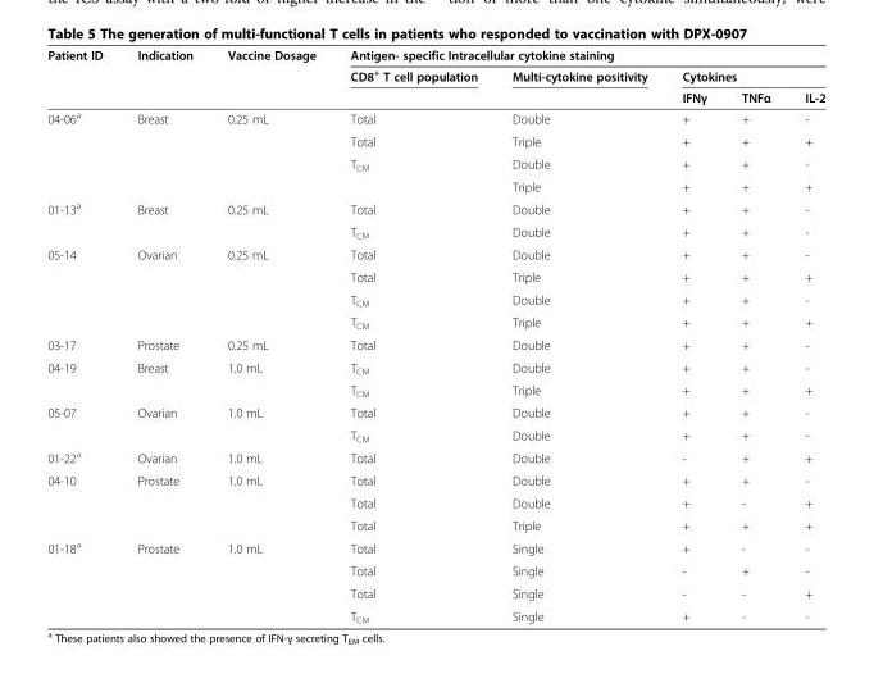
<table><thead><tr><td rowspan="3">Patient ID</td><td rowspan="3">Indication</td><td rowspan="3">Vaccine Dosage</td><td colspan="5">Antigen- specific Intracellular cytokine staining</td></tr><tr><td rowspan="2">CD8<sup>+</sup> T cell population</td><td rowspan="2">Multi-cytokine positivity</td><td colspan="3">Cytokines</td></tr><tr><td>IFNγ</td><td>TNFα</td><td>IL-2</td></tr></thead><tbody><tr><td rowspan="4">04-06<sup>a</sup></td><td>Breast</td><td>0.25 mL</td><td>Total</td><td>Double</td><td>+</td><td>+</td><td>-</td></tr><tr><td></td><td></td><td>Total</td><td>Triple</td><td>+</td><td>+</td><td>+</td></tr><tr><td></td><td></td><td>T<sub>CM</sub></td><td>Double</td><td>+</td><td>+</td><td>-</td></tr><tr><td></td><td></td><td></td><td>Triple</td><td>+</td><td>+</td><td>+</td></tr><tr><td rowspan="2">01-13<sup>a</sup></td><td>Breast</td><td>0.25 mL</td><td>Total</td><td>Double</td><td>+</td><td>+</td><td>-</td></tr><tr><td></td><td></td><td>T<sub>CM</sub></td><td>Double</td><td>+</td><td>+</td><td>-</td></tr><tr><td rowspan="4">05-14</td><td>Ovarian</td><td>0.25 mL</td><td>Total</td><td>Double</td><td>+</td><td>+</td><td>-</td></tr><tr><td></td><td></td><td>Total</td><td>Triple</td><td>+</td><td>+</td><td>+</td></tr><tr><td></td><td></td><td>T<sub>CM</sub></td><td>Double</td><td>+</td><td>+</td><td>-</td></tr><tr><td></td><td></td><td>T<sub>CM</sub></td><td>Triple</td><td>+</td><td>+</td><td>+</td></tr><tr><td>03-17</td><td>Prostate</td><td>0.25 mL</td><td>Total</td><td>Double</td><td>+</td><td>+</td><td>-</td></tr><tr><td rowspan="2">04-19</td><td>Breast</td><td>1.0 mL</td><td>T<sub>CM</sub></td><td>Double</td><td>+</td><td>+</td><td>-</td></tr><tr><td></td><td></td><td>T<sub>CM</sub></td><td>Triple</td><td>+</td><td>+</td><td>+</td></tr><tr><td rowspan="2">05-07</td><td>Ovarian</td><td>1.0 mL</td><td>Total</td><td>Double</td><td>+</td><td>+</td><td>-</td></tr><tr><td></td><td></td><td>T<sub>CM</sub></td><td>Double</td><td>+</td><td>+</td><td>-</td></tr><tr><td>01-22<sup>a</sup></td><td>Ovarian</td><td>1.0 mL</td><td>Total</td><td>Double</td><td>-</td><td>+</td><td>+</td></tr><tr><td rowspan="3">04-10</td><td>Prostate</td><td>1.0 mL</td><td>Total</td><td>Double</td><td>+</td><td>+</td><td>-</td></tr><tr><td></td><td></td><td>Total</td><td>Double</td><td>+</td><td>-</td><td>+</td></tr><tr><td></td><td></td><td>Total</td><td>Triple</td><td>+</td><td>+</td><td>+</td></tr><tr><td rowspan="4">01-18<sup>a</sup></td><td>Prostate</td><td>1.0 mL</td><td>Total</td><td>Single</td><td>+</td><td>-</td><td>-</td></tr><tr><td></td><td></td><td>Total</td><td>Single</td><td>-</td><td>+</td><td>-</td></tr><tr><td></td><td></td><td>Total</td><td>Single</td><td>-</td><td>-</td><td>+</td></tr><tr><td></td><td></td><td>T<sub>CM</sub></td><td>Single</td><td>+</td><td>-</td><td>-</td></tr></tbody></table>